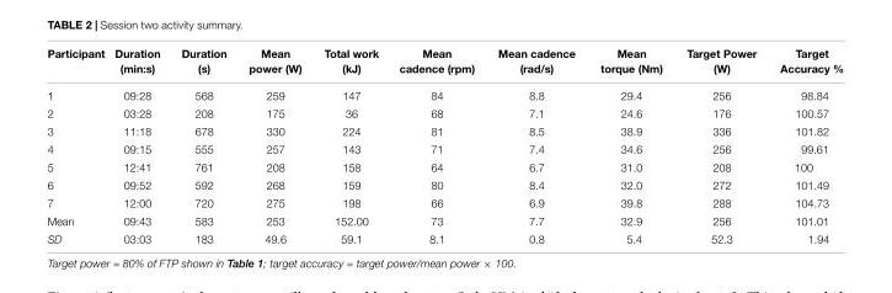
<table><thead><tr><td>Participant</td><td>Duration (min:s)</td><td>Duration (s)</td><td>Mean power (W)</td><td>Total work (kJ)</td><td>Mean cadence (rpm)</td><td>Mean cadence (rad/s)</td><td>Mean torque (Nm)</td><td>Target Power (W)</td><td>Target Accuracy %</td></tr></thead><tbody><tr><td>1</td><td>09:28</td><td>568</td><td>259</td><td>147</td><td>84</td><td>8.8</td><td>29.4</td><td>256</td><td>98.84</td></tr><tr><td>2</td><td>03:28</td><td>208</td><td>175</td><td>36</td><td>68</td><td>7.1</td><td>24.6</td><td>176</td><td>100.57</td></tr><tr><td>3</td><td>11:18</td><td>678</td><td>330</td><td>224</td><td>81</td><td>8.5</td><td>38.9</td><td>336</td><td>101.82</td></tr><tr><td>4</td><td>09:15</td><td>555</td><td>257</td><td>143</td><td>71</td><td>7.4</td><td>34.6</td><td>256</td><td>99.61</td></tr><tr><td>5</td><td>12:41</td><td>761</td><td>208</td><td>158</td><td>64</td><td>6.7</td><td>31.0</td><td>208</td><td>100</td></tr><tr><td>6</td><td>09:52</td><td>592</td><td>268</td><td>159</td><td>80</td><td>8.4</td><td>32.0</td><td>272</td><td>101.49</td></tr><tr><td>7</td><td>12:00</td><td>720</td><td>275</td><td>198</td><td>66</td><td>6.9</td><td>39.8</td><td>288</td><td>104.73</td></tr><tr><td>Mean</td><td>09:43</td><td>583</td><td>253</td><td>152.00</td><td>73</td><td>7.7</td><td>32.9</td><td>256</td><td>101.01</td></tr><tr><td>SD</td><td>03:03</td><td>183</td><td>49.6</td><td>59.1</td><td>8.1</td><td>0.8</td><td>5.4</td><td>52.3</td><td>1.94</td></tr></tbody></table>